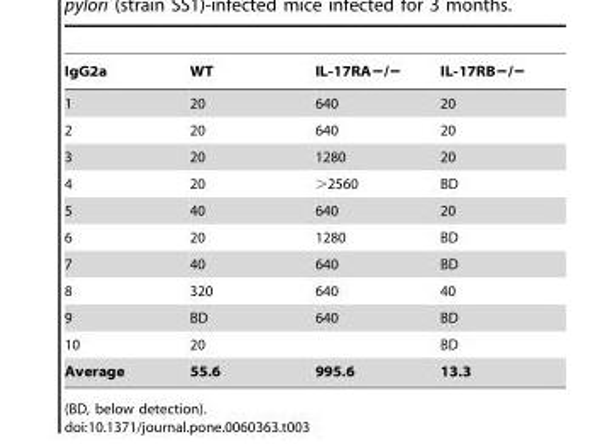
<table><thead><tr><td>IgG2a</td><td>WT</td><td>IL-17RA−/−</td><td>IL-17RB−/−</td></tr></thead><tbody><tr><td>1</td><td>20</td><td>640</td><td>20</td></tr><tr><td>2</td><td>20</td><td>640</td><td>20</td></tr><tr><td>3</td><td>20</td><td>1280</td><td>20</td></tr><tr><td>4</td><td>20</td><td>&gt;2560</td><td>BD</td></tr><tr><td>5</td><td>40</td><td>640</td><td>20</td></tr><tr><td>6</td><td>20</td><td>1280</td><td>BD</td></tr><tr><td>7</td><td>40</td><td>640</td><td>BD</td></tr><tr><td>8</td><td>320</td><td>640</td><td>40</td></tr><tr><td>9</td><td>BD</td><td>640</td><td>BD</td></tr><tr><td>10</td><td>20</td><td></td><td>BD</td></tr><tr><td>Average</td><td>55.6</td><td>995.6</td><td>13.3</td></tr></tbody></table>